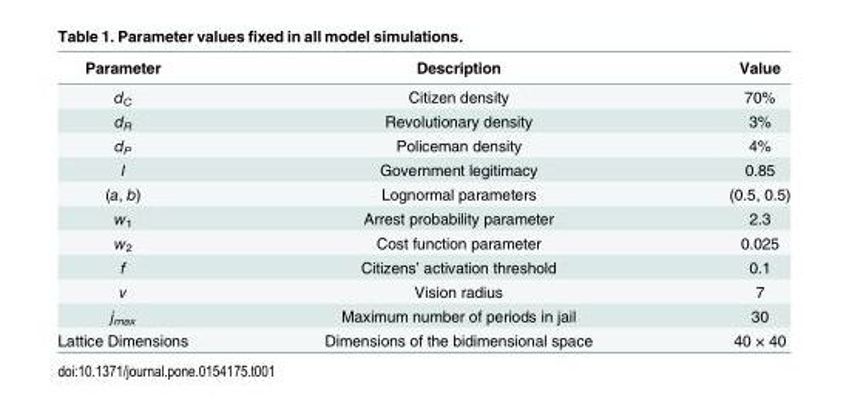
<table><thead><tr><td>Parameter</td><td>Description</td><td>Value</td></tr></thead><tbody><tr><td>d<sub>C</sub></td><td>Citizen density</td><td>70%</td></tr><tr><td>d<sub>R</sub></td><td>Revolutionary density</td><td>3%</td></tr><tr><td>d<sub>P</sub></td><td>Policeman density</td><td>4%</td></tr><tr><td>l</td><td>Government legitimacy</td><td>0.85</td></tr><tr><td>(a, b)</td><td>Lognormal parameters</td><td>(0.5, 0.5)</td></tr><tr><td>w<sub>1</sub></td><td>Arrest probability parameter</td><td>2.3</td></tr><tr><td>w<sub>2</sub></td><td>Cost function parameter</td><td>0.025</td></tr><tr><td>f</td><td>Citizens’ activation threshold</td><td>0.1</td></tr><tr><td>v</td><td>Vision radius</td><td>7</td></tr><tr><td>j<sub>max</sub></td><td>Maximum number of periods in jail</td><td>30</td></tr><tr><td>Lattice Dimensions</td><td>Dimensions of the bidimensional space</td><td>40 × 40</td></tr></tbody></table>